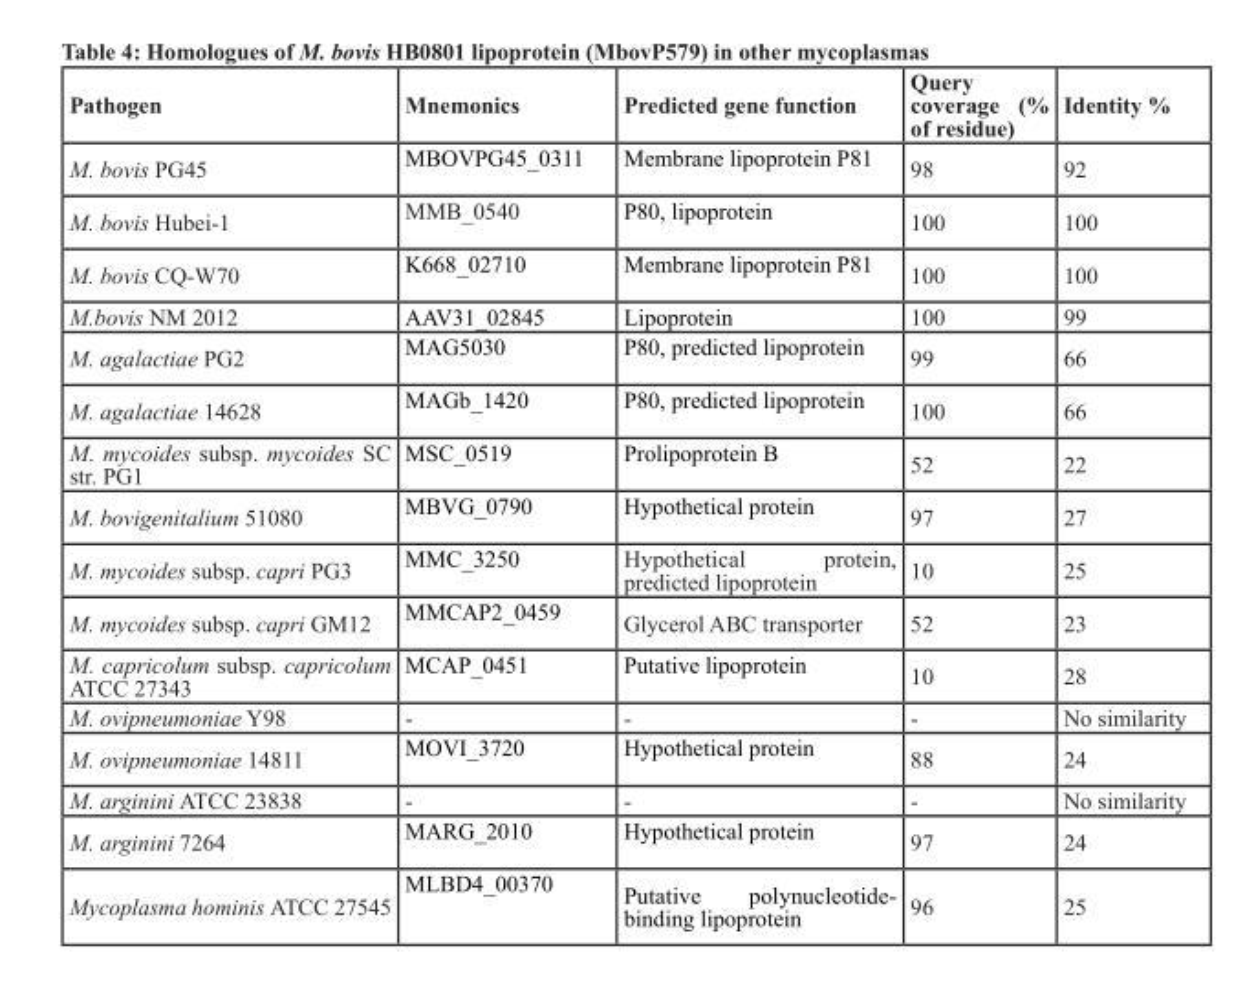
<table><thead><tr><td>Pathogen</td><td>Mnemonics</td><td>Predicted gene function</td><td>Query coverage (% of residue)</td><td>Identity %</td></tr></thead><tbody><tr><td>M. bovis PG45</td><td>MBOVPG45_0311</td><td>Membrane lipoprotein P81</td><td>98</td><td>92</td></tr><tr><td>M. bovis Hubei-1</td><td>MMB_0540</td><td>P80, lipoprotein</td><td>100</td><td>100</td></tr><tr><td>M. bovis CQ-W70</td><td>K668_02710</td><td>Membrane lipoprotein P81</td><td>100</td><td>100</td></tr><tr><td>M.bovis NM 2012</td><td>AAV31_02845</td><td>Lipoprotein</td><td>100</td><td>99</td></tr><tr><td>M. agalactiae PG2</td><td>MAG5030</td><td>P80, predicted lipoprotein</td><td>99</td><td>66</td></tr><tr><td>M. agalactiae 14628</td><td>MAGb_1420</td><td>P80, predicted lipoprotein</td><td>100</td><td>66</td></tr><tr><td>M. mycoides subsp. mycoides SC str. PG1</td><td>MSC_0519</td><td>Prolipoprotein B</td><td>52</td><td>22</td></tr><tr><td>M. bovigenitalium 51080</td><td>MBVG_0790</td><td>Hypothetical protein</td><td>97</td><td>27</td></tr><tr><td>M. mycoides subsp. capri PG3</td><td>MMC_3250</td><td>Hypothetical protein, predicted lipoprotein</td><td>10</td><td>25</td></tr><tr><td>M. mycoides subsp. capri GM12</td><td>MMCAP2_0459</td><td>Glycerol ABC transporter</td><td>52</td><td>23</td></tr><tr><td>M. capricolum subsp. capricolum ATCC 27343</td><td>MCAP_0451</td><td>Putative lipoprotein</td><td>10</td><td>28</td></tr><tr><td>M. ovipneumoniae Y98</td><td>-</td><td>-</td><td>-</td><td>No similarity</td></tr><tr><td>M. ovipneumoniae 14811</td><td>MOVI_3720</td><td>Hypothetical protein</td><td>88</td><td>24</td></tr><tr><td>M. arginini ATCC 23838</td><td>-</td><td>-</td><td>-</td><td>No similarity</td></tr><tr><td>M. arginini 7264</td><td>MARG_2010</td><td>Hypothetical protein</td><td>97</td><td>24</td></tr><tr><td>Mycoplasma hominis ATCC 27545</td><td>MLBD4_00370</td><td>Putative polynucleotide- binding lipoprotein</td><td>96</td><td>25</td></tr></tbody></table>